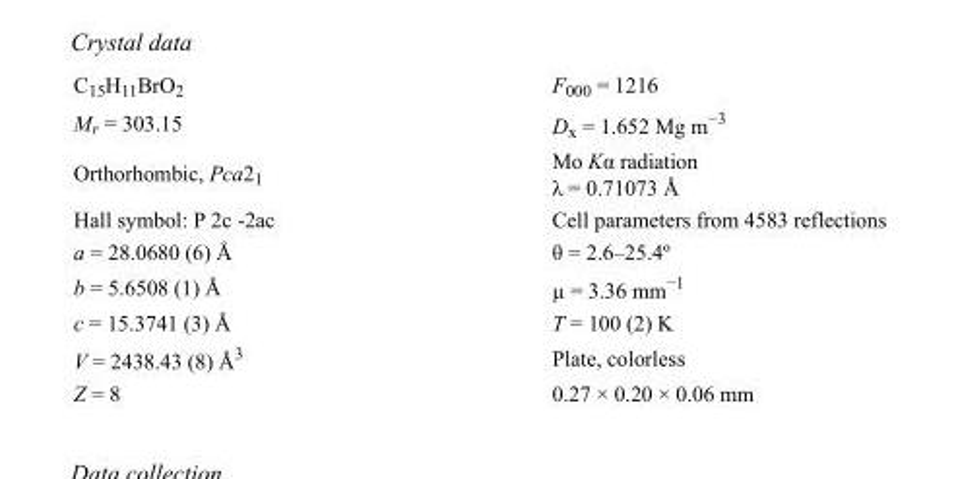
<table><tbody><tr><td>C<sub>15</sub>H<sub>11</sub>BrO<sub>2</sub></td><td>F<sub>000</sub> = 1216</td></tr><tr><td>M<sub>r</sub> = 303.15</td><td>D<sub>x</sub> = 1.652 Mg m<sup>−3</sup></td></tr><tr><td>Orthorhombic, Pca2<sub>1</sub></td><td>Mo Kα radiation λ = 0.71073 Å</td></tr><tr><td>Hall symbol: P 2c -2ac</td><td>Cell parameters from 4583 reflections</td></tr><tr><td>a = 28.0680 (6) Å</td><td>θ = 2.6–25.4º</td></tr><tr><td>b = 5.6508 (1) Å</td><td>µ = 3.36 mm<sup>−1</sup></td></tr><tr><td>c = 15.3741 (3) Å</td><td>T = 100 (2) K</td></tr><tr><td>V = 2438.43 (8) Å<sup>3</sup></td><td>Plate, colorless</td></tr><tr><td>Z = 8</td><td>0.27 × 0.20 × 0.06 mm</td></tr></tbody></table>